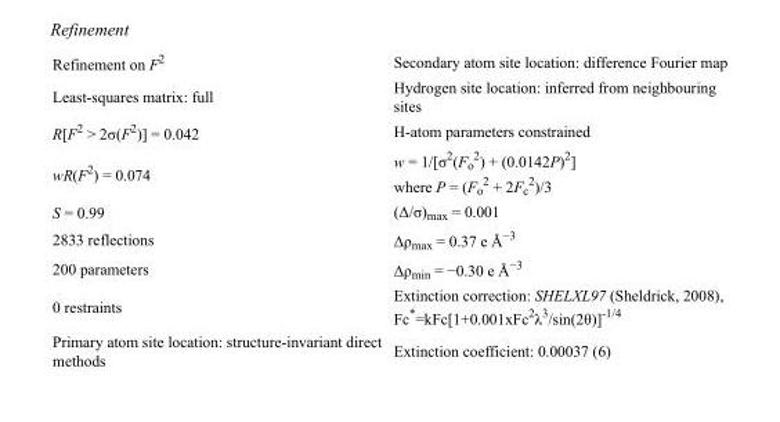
<table><tbody><tr><td>Refinement on F<sup>2</sup></td><td>Secondary atom site location: difference Fourier map</td></tr><tr><td>Least-squares matrix: full</td><td>Hydrogen site location: inferred from neighbouring sites</td></tr><tr><td>R[F<sup>2</sup> &gt; 2σ(F<sup>2</sup>)] = 0.042</td><td>H-atom parameters constrained</td></tr><tr><td>wR(F<sup>2</sup>) = 0.074</td><td>w = 1/[σ<sup>2</sup>(F<sub>o</sub> <sup>2</sup>) + (0.0142P)<sup>2</sup>] where P = (F<sub>o</sub> <sup>2</sup> + 2F<sub>c</sub> <sup>2</sup>)/3</td></tr><tr><td>S = 0.99</td><td>(Δ/σ)<sub>max</sub> = 0.001</td></tr><tr><td>2833 reflections</td><td>Δρ<sub>max</sub> = 0.37 e Å<sup>−3</sup></td></tr><tr><td>200 parameters</td><td>Δρ<sub>min</sub> = −0.30 e Å<sup>−3</sup></td></tr><tr><td>0 restraints</td><td>Extinction correction: SHELXL97 (Sheldrick, 2008), Fc*=kFc[1+0.001xFc<sup>2</sup>λ<sup>3</sup>/sin(2θ)]<sup>-1/4</sup></td></tr><tr><td>Primary atom site location: structure-invariant direct methods</td><td>Extinction coefficient: 0.00037 (6)</td></tr></tbody></table>